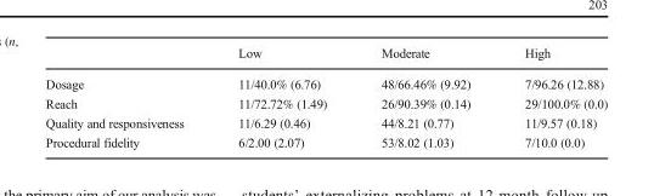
<table><thead><tr><td></td><td>Low</td><td>Moderate</td><td>High</td></tr></thead><tbody><tr><td>Dosage</td><td>11/40.0% (6.76)</td><td>48/66.46% (9.92)</td><td>7/96.26 (12.88)</td></tr><tr><td>Reach</td><td>11/72.72% (1.49)</td><td>26/90.39% (0.14)</td><td>29/100.0% (0.0)</td></tr><tr><td>Quality and responsiveness</td><td>11/6.29 (0.46)</td><td>44/8.21 (0.77)</td><td>11/9.57 (0.18)</td></tr><tr><td>Procedural fidelity</td><td>6/2.00 (2.07)</td><td>53/8.02 (1.03)</td><td>7/10.0 (0.0)</td></tr></tbody></table>